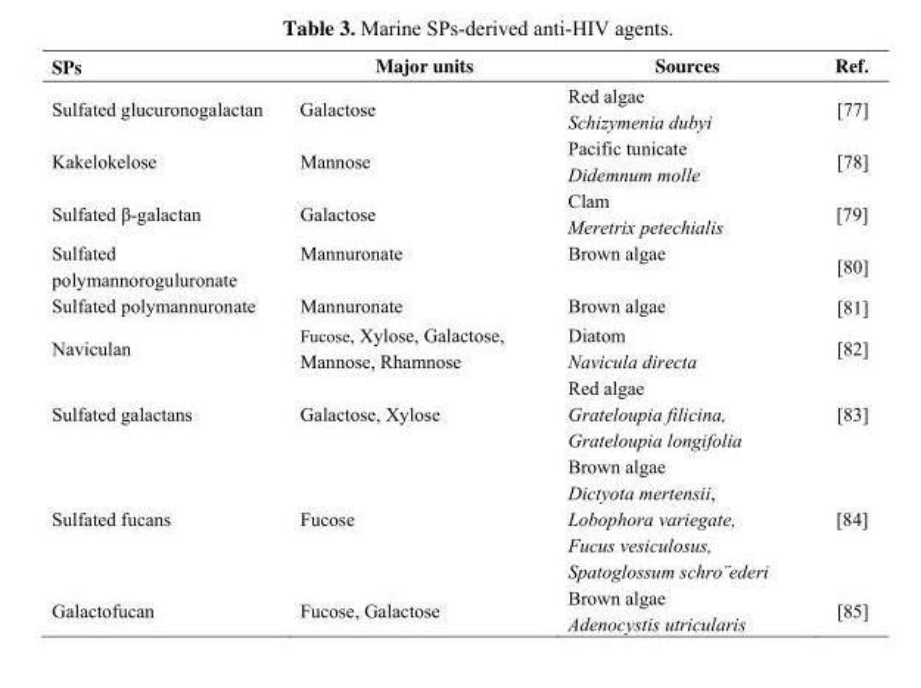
<table><thead><tr><td>SPs</td><td>Major units</td><td>Sources</td><td>Ref.</td></tr></thead><tbody><tr><td>Sulfated glucuronogalactan</td><td>Galactose</td><td>Red algae Schizymenia dubyi</td><td>[77]</td></tr><tr><td>Kakelokelose</td><td>Mannose</td><td>Pacific tunicate Didemnum molle</td><td>[78]</td></tr><tr><td>Sulfated β-galactan</td><td>Galactose</td><td>Clam Meretrix petechialis</td><td>[79]</td></tr><tr><td>Sulfated polymannoroguluronate</td><td>Mannuronate</td><td>Brown algae</td><td>[80]</td></tr><tr><td>Sulfated polymannuronate</td><td>Mannuronate</td><td>Brown algae</td><td>[81]</td></tr><tr><td>Naviculan</td><td>Fucose, Xylose, Galactose, Mannose, Rhamnose</td><td>Diatom Navicula directa</td><td>[82]</td></tr><tr><td>Sulfated galactans</td><td>Galactose, Xylose</td><td>Red algae Grateloupia filicina, Grateloupia longifolia</td><td>[83]</td></tr><tr><td>Sulfated fucans</td><td>Fucose</td><td>Brown algae Dictyota mertensii, Lobophora variegate, Fucus vesiculosus, Spatoglossum schro¨ederi</td><td>[84]</td></tr><tr><td>Galactofucan</td><td>Fucose, Galactose</td><td>Brown algae Adenocystis utricularis</td><td>[85]</td></tr></tbody></table>